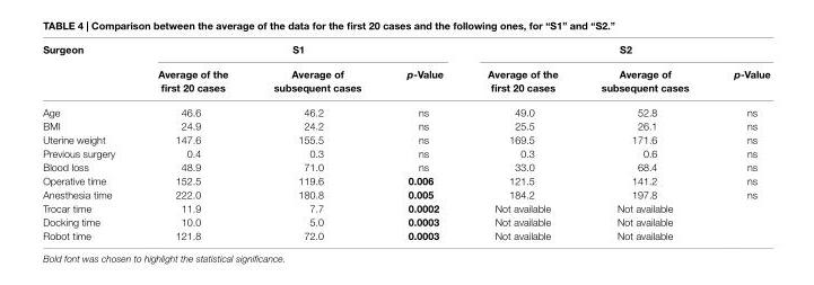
<table><thead><tr><td rowspan="2">surgeon</td><td colspan="3">s1</td><td colspan="3">s2</td></tr><tr><td>average of the first 20 cases</td><td>average of subsequent cases</td><td>p-Value</td><td>average of the first 20 cases</td><td>average of subsequent cases</td><td>p-Value</td></tr></thead><tbody><tr><td>Age</td><td>46.6</td><td>46.2</td><td>ns</td><td>49.0</td><td>52.8</td><td>ns</td></tr><tr><td>BMI</td><td>24.9</td><td>24.2</td><td>ns</td><td>25.5</td><td>26.1</td><td>ns</td></tr><tr><td>Uterine weight</td><td>147.6</td><td>155.5</td><td>ns</td><td>169.5</td><td>171.6</td><td>ns</td></tr><tr><td>Previous surgery</td><td>0.4</td><td>0.3</td><td>ns</td><td>0.3</td><td>0.6</td><td>ns</td></tr><tr><td>Blood loss</td><td>48.9</td><td>71.0</td><td>ns</td><td>33.0</td><td>68.4</td><td>ns</td></tr><tr><td>Operative time</td><td>152.5</td><td>119.6</td><td>0.006</td><td>121.5</td><td>141.2</td><td>ns</td></tr><tr><td>Anesthesia time</td><td>222.0</td><td>180.8</td><td>0.005</td><td>184.2</td><td>197.8</td><td>ns</td></tr><tr><td>Trocar time</td><td>11.9</td><td>7.7</td><td>0.0002</td><td>Not available</td><td>Not available</td><td></td></tr><tr><td>Docking time</td><td>10.0</td><td>5.0</td><td>0.0003</td><td>Not available</td><td>Not available</td><td></td></tr><tr><td>Robot time</td><td>121.8</td><td>72.0</td><td>0.0003</td><td>Not available</td><td>Not available</td><td></td></tr></tbody></table>